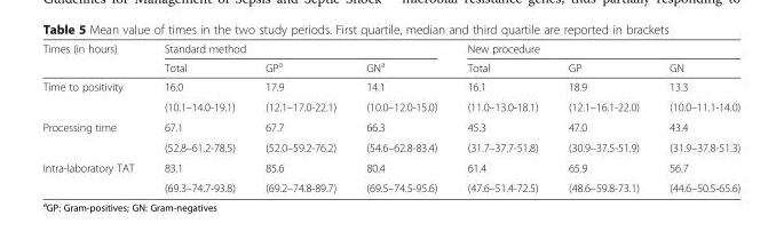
<table><thead><tr><td rowspan="2">Times (in hours)</td><td colspan="3">Standard method</td><td colspan="3">New procedure</td></tr><tr><td>Total</td><td>GP<sup>a</sup></td><td>GN<sup>a</sup></td><td>Total</td><td>GP</td><td>GN</td></tr></thead><tbody><tr><td rowspan="2">Time to positivity</td><td>16.0</td><td>17.9</td><td>14.1</td><td>16.1</td><td>18.9</td><td>13.3</td></tr><tr><td>(10.1–14.0-19.1)</td><td>(12.1–17.0-22.1)</td><td>(10.0–12.0-15.0)</td><td>(11.0–13.0-18.1)</td><td>(12.1–16.1-22.0)</td><td>(10.0–11.1-14.0)</td></tr><tr><td rowspan="2">Processing time</td><td>67.1</td><td>67.7</td><td>66.3</td><td>45.3</td><td>47.0</td><td>43.4</td></tr><tr><td>(52.8–61.2-78.5)</td><td>(52.0–59.2-76.2)</td><td>(54.6–62.8-83.4)</td><td>(31.7–37.7-51.8)</td><td>(30.9–37.5-51.9)</td><td>(31.9–37.8-51.3)</td></tr><tr><td rowspan="2">Intra-laboratory TAT</td><td>83.1</td><td>85.6</td><td>80.4</td><td>61.4</td><td>65.9</td><td>56.7</td></tr><tr><td>(69.3–74.7-93.8)</td><td>(69.2–74.8-89.7)</td><td>(69.5–74.5-95.6)</td><td>(47.6–51.4-72.5)</td><td>(48.6–59.8-73.1)</td><td>(44.6–50.5-65.6)</td></tr></tbody></table>